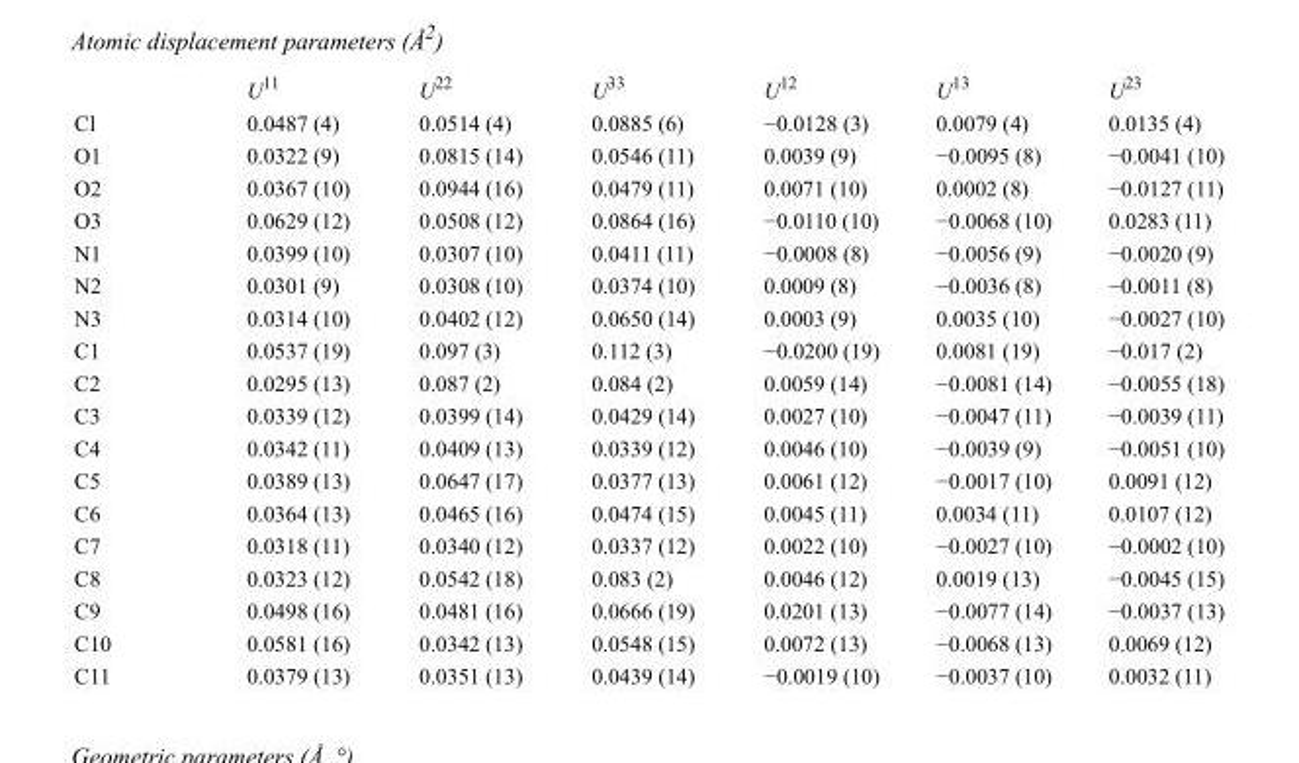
<table><thead><tr><td></td><td>U<sup>11</sup></td><td>U<sup>22</sup></td><td>U<sup>33</sup></td><td>U<sup>12</sup></td><td>U<sup>13</sup></td><td>U<sup>23</sup></td></tr></thead><tbody><tr><td>Cl</td><td>0.0487 (4)</td><td>0.0514 (4)</td><td>0.0885 (6)</td><td>−0.0128 (3)</td><td>0.0079 (4)</td><td>0.0135 (4)</td></tr><tr><td>O1</td><td>0.0322 (9)</td><td>0.0815 (14)</td><td>0.0546 (11)</td><td>0.0039 (9)</td><td>−0.0095 (8)</td><td>−0.0041 (10)</td></tr><tr><td>O2</td><td>0.0367 (10)</td><td>0.0944 (16)</td><td>0.0479 (11)</td><td>0.0071 (10)</td><td>0.0002 (8)</td><td>−0.0127 (11)</td></tr><tr><td>O3</td><td>0.0629 (12)</td><td>0.0508 (12)</td><td>0.0864 (16)</td><td>−0.0110 (10)</td><td>−0.0068 (10)</td><td>0.0283 (11)</td></tr><tr><td>N1</td><td>0.0399 (10)</td><td>0.0307 (10)</td><td>0.0411 (11)</td><td>−0.0008 (8)</td><td>−0.0056 (9)</td><td>−0.0020 (9)</td></tr><tr><td>N2</td><td>0.0301 (9)</td><td>0.0308 (10)</td><td>0.0374 (10)</td><td>0.0009 (8)</td><td>−0.0036 (8)</td><td>−0.0011 (8)</td></tr><tr><td>N3</td><td>0.0314 (10)</td><td>0.0402 (12)</td><td>0.0650 (14)</td><td>0.0003 (9)</td><td>0.0035 (10)</td><td>−0.0027 (10)</td></tr><tr><td>C1</td><td>0.0537 (19)</td><td>0.097 (3)</td><td>0.112 (3)</td><td>−0.0200 (19)</td><td>0.0081 (19)</td><td>−0.017 (2)</td></tr><tr><td>C2</td><td>0.0295 (13)</td><td>0.087 (2)</td><td>0.084 (2)</td><td>0.0059 (14)</td><td>−0.0081 (14)</td><td>−0.0055 (18)</td></tr><tr><td>C3</td><td>0.0339 (12)</td><td>0.0399 (14)</td><td>0.0429 (14)</td><td>0.0027 (10)</td><td>−0.0047 (11)</td><td>−0.0039 (11)</td></tr><tr><td>C4</td><td>0.0342 (11)</td><td>0.0409 (13)</td><td>0.0339 (12)</td><td>0.0046 (10)</td><td>−0.0039 (9)</td><td>−0.0051 (10)</td></tr><tr><td>C5</td><td>0.0389 (13)</td><td>0.0647 (17)</td><td>0.0377 (13)</td><td>0.0061 (12)</td><td>−0.0017 (10)</td><td>0.0091 (12)</td></tr><tr><td>C6</td><td>0.0364 (13)</td><td>0.0465 (16)</td><td>0.0474 (15)</td><td>0.0045 (11)</td><td>0.0034 (11)</td><td>0.0107 (12)</td></tr><tr><td>C7</td><td>0.0318 (11)</td><td>0.0340 (12)</td><td>0.0337 (12)</td><td>0.0022 (10)</td><td>−0.0027 (10)</td><td>−0.0002 (10)</td></tr><tr><td>C8</td><td>0.0323 (12)</td><td>0.0542 (18)</td><td>0.083 (2)</td><td>0.0046 (12)</td><td>0.0019 (13)</td><td>−0.0045 (15)</td></tr><tr><td>C9</td><td>0.0498 (16)</td><td>0.0481 (16)</td><td>0.0666 (19)</td><td>0.0201 (13)</td><td>−0.0077 (14)</td><td>−0.0037 (13)</td></tr><tr><td>C10</td><td>0.0581 (16)</td><td>0.0342 (13)</td><td>0.0548 (15)</td><td>0.0072 (13)</td><td>−0.0068 (13)</td><td>0.0069 (12)</td></tr><tr><td>C11</td><td>0.0379 (13)</td><td>0.0351 (13)</td><td>0.0439 (14)</td><td>−0.0019 (10)</td><td>−0.0037 (10)</td><td>0.0032 (11)</td></tr></tbody></table>